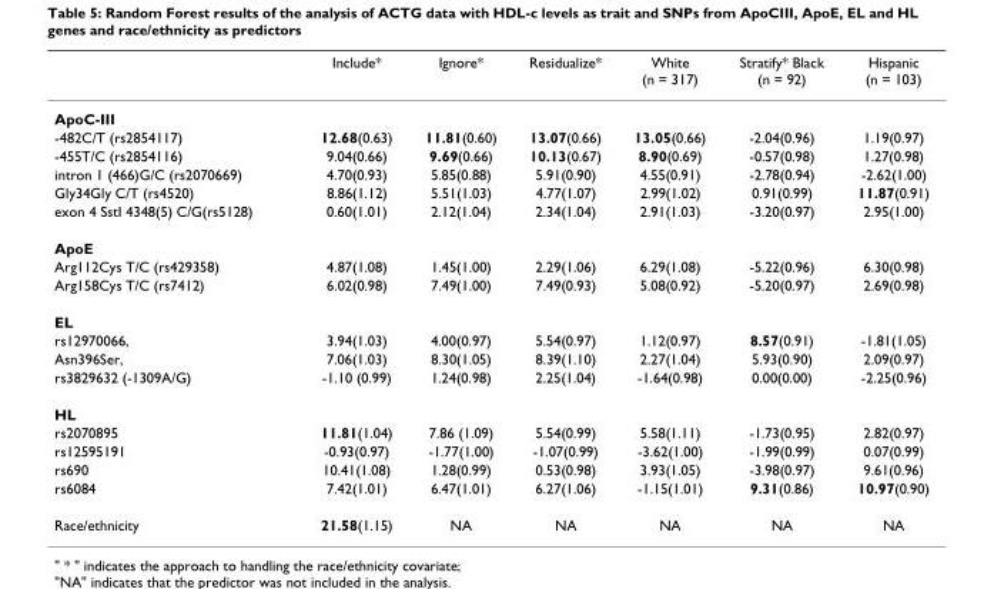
<table><thead><tr><td></td><td>Include*</td><td>Ignore*</td><td>Residualize*</td><td>White (n = 317)</td><td>Stratify* Black (n = 92)</td><td>Hispanic (n = 103)</td></tr></thead><tbody><tr><td colspan="7">ApoC-III</td></tr><tr><td>-482C/T (rs2854117)</td><td>12.68(0.63)</td><td>11.81(0.60)</td><td>13.07(0.66)</td><td>13.05(0.66)</td><td>-2.04(0.96)</td><td>1.19(0.97)</td></tr><tr><td>-455T/C (rs2854116)</td><td>9.04(0.66)</td><td>9.69(0.66)</td><td>10.13(0.67)</td><td>8.90(0.69)</td><td>-0.57(0.98)</td><td>1.27(0.98)</td></tr><tr><td>intron 1 (466)G/C (rs2070669)</td><td>4.70(0.93)</td><td>5.85(0.88)</td><td>5.91(0.90)</td><td>4.55(0.91)</td><td>-2.78(0.94)</td><td>-2.62(1.00)</td></tr><tr><td>Gly34Gly C/T (rs4520)</td><td>8.86(1.12)</td><td>5.51(1.03)</td><td>4.77(1.07)</td><td>2.99(1.02)</td><td>0.91(0.99)</td><td>11.87(0.91)</td></tr><tr><td>exon 4 SstI 4348(5) C/G(rs5128)</td><td>0.60(1.01)</td><td>2.12(1.04)</td><td>2.34(1.04)</td><td>2.91(1.03)</td><td>-3.20(0.97)</td><td>2.95(1.00)</td></tr><tr><td colspan="7">ApoE</td></tr><tr><td>Arg112Cys T/C (rs429358)</td><td>4.87(1.08)</td><td>1.45(1.00)</td><td>2.29(1.06)</td><td>6.29(1.08)</td><td>-5.22(0.96)</td><td>6.30(0.98)</td></tr><tr><td>Arg158Cys T/C (rs7412)</td><td>6.02(0.98)</td><td>7.49(1.00)</td><td>7.49(0.93)</td><td>5.08(0.92)</td><td>-5.20(0.97)</td><td>2.69(0.98)</td></tr><tr><td colspan="7">EL</td></tr><tr><td>rs12970066,</td><td>3.94(1.03)</td><td>4.00(0.97)</td><td>5.54(0.97)</td><td>1.12(0.97)</td><td>8.57(0.91)</td><td>-1.81(1.05)</td></tr><tr><td>Asn396Ser,</td><td>7.06(1.03)</td><td>8.30(1.05)</td><td>8.39(1.10)</td><td>2.27(1.04)</td><td>5.93(0.90)</td><td>2.09(0.97)</td></tr><tr><td>rs3829632 (-1309A/G)</td><td>-1.10 (0.99)</td><td>1.24(0.98)</td><td>2.25(1.04)</td><td>-1.64(0.98)</td><td>0.00(0.00)</td><td>-2.25(0.96)</td></tr><tr><td colspan="7">HL</td></tr><tr><td>rs2070895</td><td>11.81(1.04)</td><td>7.86 (1.09)</td><td>5.54(0.99)</td><td>5.58(1.11)</td><td>-1.73(0.95)</td><td>2.82(0.97)</td></tr><tr><td>rs12595191</td><td>-0.93(0.97)</td><td>-1.77(1.00)</td><td>-1.07(0.99)</td><td>-3.62(1.00)</td><td>-1.99(0.99)</td><td>0.07(0.99)</td></tr><tr><td>rs690</td><td>10.41(1.08)</td><td>1.28(0.99)</td><td>0.53(0.98)</td><td>3.93(1.05)</td><td>-3.98(0.97)</td><td>9.61(0.96)</td></tr><tr><td>rs6084</td><td>7.42(1.01)</td><td>6.47(1.01)</td><td>6.27(1.06)</td><td>-1.15(1.01)</td><td>9.31(0.86)</td><td>10.97(0.90)</td></tr><tr><td>Race/ethnicity</td><td>21.58(1.15)</td><td>NA</td><td>NA</td><td>NA</td><td>NA</td><td>NA</td></tr></tbody></table>